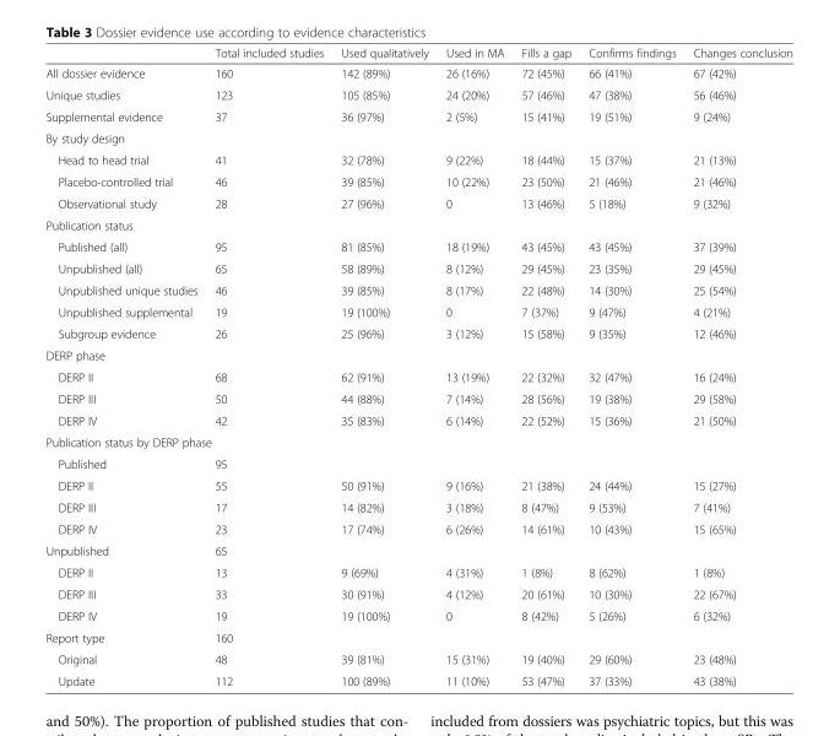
<table><thead><tr><td></td><td>Total included studies</td><td>Used qualitatively</td><td>Used in MA</td><td>Fills a gap</td><td>Confirms findings</td><td>Changes conclusion</td></tr></thead><tbody><tr><td>All dossier evidence</td><td>160</td><td>142 (89%)</td><td>26 (16%)</td><td>72 (45%)</td><td>66 (41%)</td><td>67 (42%)</td></tr><tr><td>Unique studies</td><td>123</td><td>105 (85%)</td><td>24 (20%)</td><td>57 (46%)</td><td>47 (38%)</td><td>56 (46%)</td></tr><tr><td>Supplemental evidence</td><td>37</td><td>36 (97%)</td><td>2 (5%)</td><td>15 (41%)</td><td>19 (51%)</td><td>9 (24%)</td></tr><tr><td colspan="7">By study design</td></tr><tr><td>Head to head trial</td><td>41</td><td>32 (78%)</td><td>9 (22%)</td><td>18 (44%)</td><td>15 (37%)</td><td>21 (13%)</td></tr><tr><td>Placebo-controlled trial</td><td>46</td><td>39 (85%)</td><td>10 (22%)</td><td>23 (50%)</td><td>21 (46%)</td><td>21 (46%)</td></tr><tr><td>Observational study</td><td>28</td><td>27 (96%)</td><td>0</td><td>13 (46%)</td><td>5 (18%)</td><td>9 (32%)</td></tr><tr><td colspan="7">Publication status</td></tr><tr><td>Published (all)</td><td>95</td><td>81 (85%)</td><td>18 (19%)</td><td>43 (45%)</td><td>43 (45%)</td><td>37 (39%)</td></tr><tr><td>Unpublished (all)</td><td>65</td><td>58 (89%)</td><td>8 (12%)</td><td>29 (45%)</td><td>23 (35%)</td><td>29 (45%)</td></tr><tr><td>Unpublished unique studies</td><td>46</td><td>39 (85%)</td><td>8 (17%)</td><td>22 (48%)</td><td>14 (30%)</td><td>25 (54%)</td></tr><tr><td>Unpublished supplemental</td><td>19</td><td>19 (100%)</td><td>0</td><td>7 (37%)</td><td>9 (47%)</td><td>4 (21%)</td></tr><tr><td>Subgroup evidence</td><td>26</td><td>25 (96%)</td><td>3 (12%)</td><td>15 (58%)</td><td>9 (35%)</td><td>12 (46%)</td></tr><tr><td colspan="7">DERP phase</td></tr><tr><td>DERP II</td><td>68</td><td>62 (91%)</td><td>13 (19%)</td><td>22 (32%)</td><td>32 (47%)</td><td>16 (24%)</td></tr><tr><td>DERP III</td><td>50</td><td>44 (88%)</td><td>7 (14%)</td><td>28 (56%)</td><td>19 (38%)</td><td>29 (58%)</td></tr><tr><td>DERP IV</td><td>42</td><td>35 (83%)</td><td>6 (14%)</td><td>22 (52%)</td><td>15 (36%)</td><td>21 (50%)</td></tr><tr><td colspan="7">Publication status by DERP phase</td></tr><tr><td>Published</td><td>95</td><td></td><td></td><td></td><td></td><td></td></tr><tr><td>DERP II</td><td>55</td><td>50 (91%)</td><td>9 (16%)</td><td>21 (38%)</td><td>24 (44%)</td><td>15 (27%)</td></tr><tr><td>DERP III</td><td>17</td><td>14 (82%)</td><td>3 (18%)</td><td>8 (47%)</td><td>9 (53%)</td><td>7 (41%)</td></tr><tr><td>DERP IV</td><td>23</td><td>17 (74%)</td><td>6 (26%)</td><td>14 (61%)</td><td>10 (43%)</td><td>15 (65%)</td></tr><tr><td>Unpublished</td><td>65</td><td></td><td></td><td></td><td></td><td></td></tr><tr><td>DERP II</td><td>13</td><td>9 (69%)</td><td>4 (31%)</td><td>1 (8%)</td><td>8 (62%)</td><td>1 (8%)</td></tr><tr><td>DERP III</td><td>33</td><td>30 (91%)</td><td>4 (12%)</td><td>20 (61%)</td><td>10 (30%)</td><td>22 (67%)</td></tr><tr><td>DERP IV</td><td>19</td><td>19 (100%)</td><td>0</td><td>8 (42%)</td><td>5 (26%)</td><td>6 (32%)</td></tr><tr><td>Report type</td><td>160</td><td></td><td></td><td></td><td></td><td></td></tr><tr><td>Original</td><td>48</td><td>39 (81%)</td><td>15 (31%)</td><td>19 (40%)</td><td>29 (60%)</td><td>23 (48%)</td></tr><tr><td>Update</td><td>112</td><td>100 (89%)</td><td>11 (10%)</td><td>53 (47%)</td><td>37 (33%)</td><td>43 (38%)</td></tr></tbody></table>